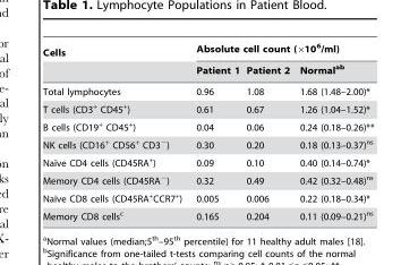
<table><thead><tr><td rowspan="2">Cells</td><td colspan="3">Absolute cell count (×10<sup>6</sup>/ml)</td></tr><tr><td>Patient 1</td><td>Patient 2</td><td>Normal<sup>ab</sup></td></tr></thead><tbody><tr><td>Total lymphocytes</td><td>0.96</td><td>1.08</td><td>1.68 (1.48–2.00)*</td></tr><tr><td>T cells (CD3<sup>+</sup> CD45<sup>+</sup>)</td><td>0.61</td><td>0.67</td><td>1.26 (1.04–1.52)*</td></tr><tr><td>B cells (CD19<sup>+</sup> CD45<sup>+</sup>)</td><td>0.04</td><td>0.06</td><td>0.24 (0.18–0.26)**</td></tr><tr><td>NK cells (CD16<sup>+</sup> CD56<sup>+</sup> CD3<sup>−</sup>)</td><td>0.30</td><td>0.20</td><td>0.18 (0.13–0.37)<sup>ns</sup></td></tr><tr><td>Naı¨ve CD4 cells (CD45RA+)</td><td>0.09</td><td>0.10</td><td>0.40 (0.14–0.74)*</td></tr><tr><td>Memory CD4 cells (CD45RA<sup>−</sup>)</td><td>0.32</td><td>0.49</td><td>0.42 (0.32–0.48)<sup>ns</sup></td></tr><tr><td>Naı¨ve CD8 cells (CD45RA+CCR7+)</td><td>0.005</td><td>0.006</td><td>0.22 (0.18–0.34)*</td></tr><tr><td>Memory CD8 cells<sup>c</sup></td><td>0.165</td><td>0.204</td><td>0.11 (0.09–0.21)<sup>ns</sup></td></tr></tbody></table>